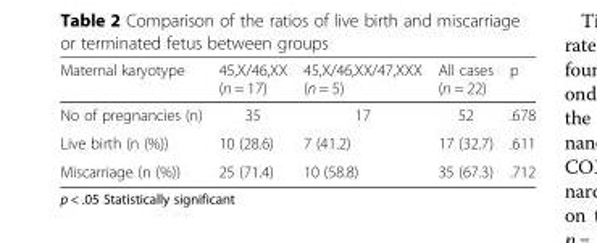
<table><thead><tr><td>Maternal karyotype</td><td>45,X/46,XX (n = 17)</td><td>45,X/46,XX/47,XXX (n = 5)</td><td>All cases (n = 22)</td><td>p</td></tr></thead><tbody><tr><td>No of pregnancies (n)</td><td>35</td><td>17</td><td>52</td><td>.678</td></tr><tr><td>Live birth (n (%))</td><td>10 (28.6)</td><td>7 (41.2)</td><td>17 (32.7)</td><td>.611</td></tr><tr><td>Miscarriage (n (%))</td><td>25 (71.4)</td><td>10 (58.8)</td><td>35 (67.3)</td><td>.712</td></tr></tbody></table>